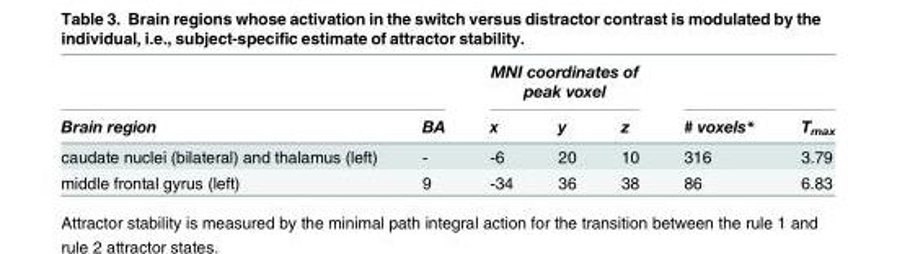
<table><thead><tr><td rowspan="2">Brain region</td><td rowspan="2">BA</td><td colspan="3">MNI coordinates of peak voxel</td><td rowspan="2"># voxels*</td><td rowspan="2">T<sub>max</sub></td></tr><tr><td>x</td><td>y</td><td>z</td></tr></thead><tbody><tr><td>caudate nuclei (bilateral) and thalamus (left)</td><td>-</td><td>-6</td><td>20</td><td>10</td><td>316</td><td>3.79</td></tr><tr><td>middle frontal gyrus (left)</td><td>9</td><td>-34</td><td>36</td><td>38</td><td>86</td><td>6.83</td></tr></tbody></table>